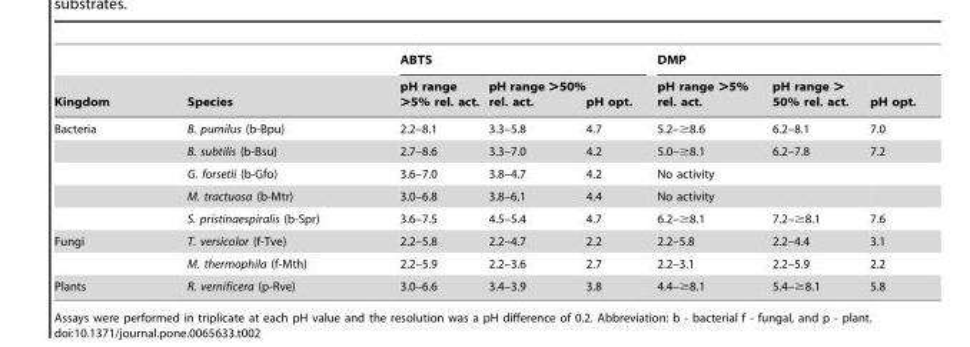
<table><thead><tr><td rowspan="2">Kingdom</td><td rowspan="2">Species</td><td colspan="3">ABTS</td><td colspan="3">DMP</td></tr><tr><td>pH range &gt;5% rel. act.</td><td>pH range &gt;50% rel. act.</td><td>pH opt.</td><td>pH range &gt;5% rel. act.</td><td>pH range &gt; 50% rel. act.</td><td>pH opt.</td></tr></thead><tbody><tr><td rowspan="5">Bacteria</td><td>B. pumilus (b-Bpu)</td><td>2.2–8.1</td><td>3.3–5.8</td><td>4.7</td><td>5.2–≥8.6</td><td>6.2–8.1</td><td>7.0</td></tr><tr><td>B. subtilis (b-Bsu)</td><td>2.7–8.6</td><td>3.3–7.0</td><td>4.2</td><td>5.0–≥8.1</td><td>6.2–7.8</td><td>7.2</td></tr><tr><td>G. forsetii (b-Gfo)</td><td>3.6–7.0</td><td>3.8–4.7</td><td>4.2</td><td>No activity</td><td></td><td></td></tr><tr><td>M. tractuosa (b-Mtr)</td><td>3.0–6.8</td><td>3.8–6.1</td><td>4.4</td><td>No activity</td><td></td><td></td></tr><tr><td>S. pristinaespiralis (b-Spr)</td><td>3.6–7.5</td><td>4.5–5.4</td><td>4.7</td><td>6.2–≥8.1</td><td>7.2–≥8.1</td><td>7.6</td></tr><tr><td rowspan="2">Fungi</td><td>T. versicolor (f-Tve)</td><td>2.2–5.8</td><td>2.2–4.7</td><td>2.2</td><td>2.2–5.8</td><td>2.2–4.4</td><td>3.1</td></tr><tr><td>M. thermophila (f-Mth)</td><td>2.2–5.9</td><td>2.2–3.6</td><td>2.7</td><td>2.2–3.1</td><td>2.2–5.9</td><td>2.2</td></tr><tr><td>Plants</td><td>R. vernificera (p-Rve)</td><td>3.0–6.6</td><td>3.4–3.9</td><td>3.8</td><td>4.4–≥8.1</td><td>5.4–≥8.1</td><td>5.8</td></tr></tbody></table>